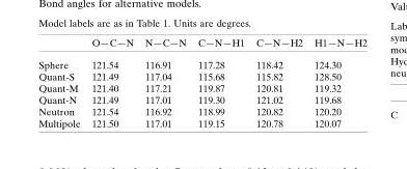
<table><thead><tr><td></td><td>O—C—N</td><td>N—C—N</td><td>C—N—H1</td><td>C—N—H2</td><td>H1—N—H2</td></tr></thead><tbody><tr><td>Sphere</td><td>121.54</td><td>116.91</td><td>117.28</td><td>118.42</td><td>124.30</td></tr><tr><td>Quant-S</td><td>121.49</td><td>117.04</td><td>115.68</td><td>115.82</td><td>128.50</td></tr><tr><td>Quant-M</td><td>121.40</td><td>117.21</td><td>119.87</td><td>120.81</td><td>119.32</td></tr><tr><td>Quant-N</td><td>121.49</td><td>117.01</td><td>119.30</td><td>121.02</td><td>119.68</td></tr><tr><td>Neutron</td><td>121.54</td><td>116.92</td><td>118.99</td><td>120.82</td><td>120.20</td></tr><tr><td>Multipole</td><td>121.50</td><td>117.01</td><td>119.15</td><td>120.78</td><td>120.07</td></tr></tbody></table>